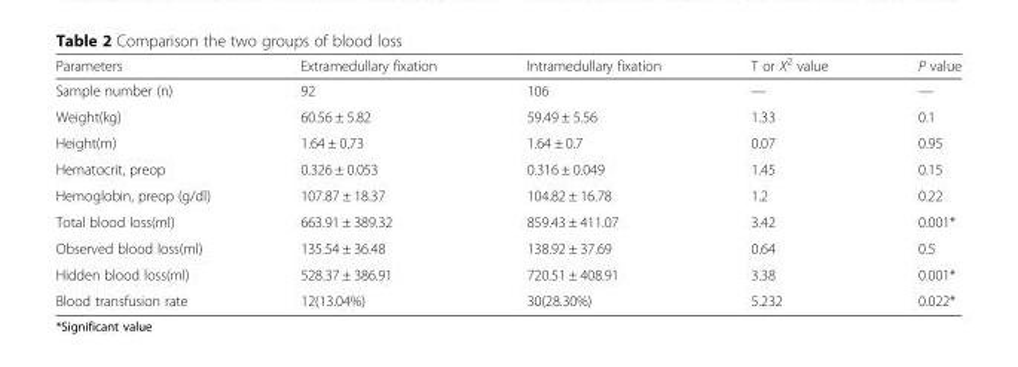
<table><thead><tr><td>Parameters</td><td>Extramedullary fixation</td><td>Intramedullary fixation</td><td>T or X<sup>2</sup> value</td><td>P value</td></tr></thead><tbody><tr><td>Sample number (n)</td><td>92</td><td>106</td><td>—</td><td>—</td></tr><tr><td>Weight(kg)</td><td>60.56 ± 5.82</td><td>59.49 ± 5.56</td><td>1.33</td><td>0.1</td></tr><tr><td>Height(m)</td><td>1.64 ± 0.73</td><td>1.64 ± 0.7</td><td>0.07</td><td>0.95</td></tr><tr><td>Hematocrit, preop</td><td>0.326 ± 0.053</td><td>0.316 ± 0.049</td><td>1.45</td><td>0.15</td></tr><tr><td>Hemoglobin, preop (g/dl)</td><td>107.87 ± 18.37</td><td>104.82 ± 16.78</td><td>1.2</td><td>0.22</td></tr><tr><td>Total blood loss(ml)</td><td>663.91 ± 389.32</td><td>859.43 ± 411.07</td><td>3.42</td><td>0.001*</td></tr><tr><td>Observed blood loss(ml)</td><td>135.54 ± 36.48</td><td>138.92 ± 37.69</td><td>0.64</td><td>0.5</td></tr><tr><td>Hidden blood loss(ml)</td><td>528.37 ± 386.91</td><td>720.51 ± 408.91</td><td>3.38</td><td>0.001*</td></tr><tr><td>Blood transfusion rate</td><td>12(13.04%)</td><td>30(28.30%)</td><td>5.232</td><td>0.022*</td></tr></tbody></table>